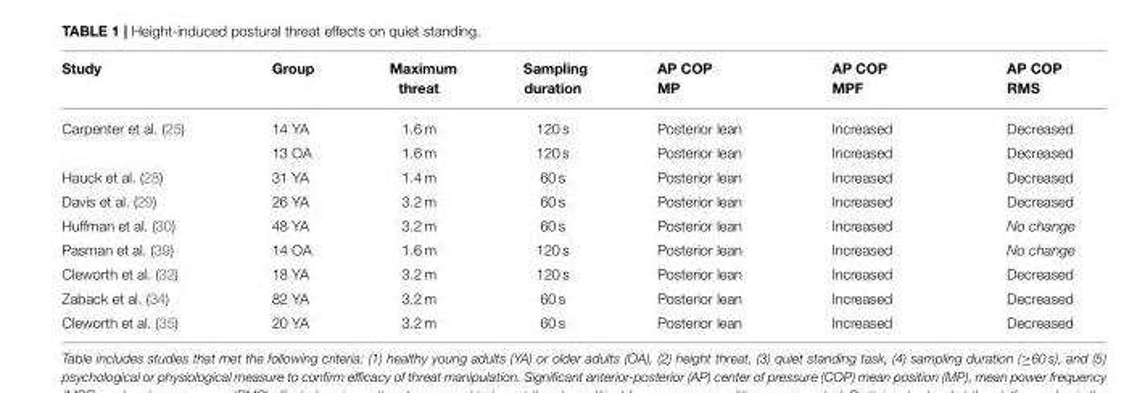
<table><thead><tr><td>Study</td><td>Group</td><td>Maximum threat</td><td>Sampling duration</td><td>AP COP MP</td><td>AP COP MPF</td><td>AP COP RMS</td></tr></thead><tbody><tr><td rowspan="2">Carpenter et al. (25)</td><td>14 YA</td><td>1.6 m</td><td>120 s</td><td>Posterior lean</td><td>Increased</td><td>Decreased</td></tr><tr><td>13 OA</td><td>1.6 m</td><td>120 s</td><td>Posterior lean</td><td>Increased</td><td>Decreased</td></tr><tr><td>Hauck et al. (28)</td><td>31 YA</td><td>1.4 m</td><td>60 s</td><td>Posterior lean</td><td>Increased</td><td>Decreased</td></tr><tr><td>Davis et al. (29)</td><td>26 YA</td><td>3.2 m</td><td>60 s</td><td>Posterior lean</td><td>Increased</td><td>Decreased</td></tr><tr><td>Huffman et al. (30)</td><td>48 YA</td><td>3.2 m</td><td>60 s</td><td>Posterior lean</td><td>Increased</td><td>No change</td></tr><tr><td>Pasman et al. (39)</td><td>14 OA</td><td>1.6 m</td><td>120 s</td><td>Posterior lean</td><td>Increased</td><td>No change</td></tr><tr><td>Cleworth et al. (32)</td><td>18 YA</td><td>3.2 m</td><td>120 s</td><td>Posterior lean</td><td>Increased</td><td>Decreased</td></tr><tr><td>Zaback et al. (34)</td><td>82 YA</td><td>3.2 m</td><td>60 s</td><td>Posterior lean</td><td>Increased</td><td>Decreased</td></tr><tr><td>Cleworth et al. (35)</td><td>20 YA</td><td>3.2 m</td><td>60 s</td><td>Posterior lean</td><td>Increased</td><td>Decreased</td></tr></tbody></table>